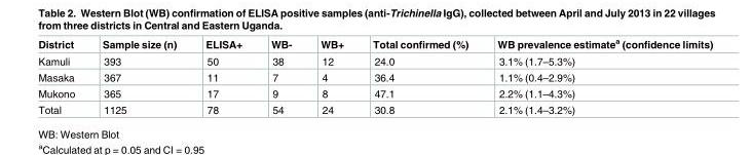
<table><thead><tr><td>District</td><td>Sample size (n)</td><td>ELISA+</td><td>WB-</td><td>WB+</td><td>Total confirmed (%)</td><td>WB prevalence estimate<sup>a</sup> (confidence limits)</td></tr></thead><tbody><tr><td>Kamuli</td><td>393</td><td>50</td><td>38</td><td>12</td><td>24.0</td><td>3.1% (1.7–5.3%)</td></tr><tr><td>Masaka</td><td>367</td><td>11</td><td>7</td><td>4</td><td>36.4</td><td>1.1% (0.4–2.9%)</td></tr><tr><td>Mukono</td><td>365</td><td>17</td><td>9</td><td>8</td><td>47.1</td><td>2.2% (1.1–4.3%)</td></tr><tr><td>Total</td><td>1125</td><td>78</td><td>54</td><td>24</td><td>30.8</td><td>2.1% (1.4–3.2%)</td></tr></tbody></table>